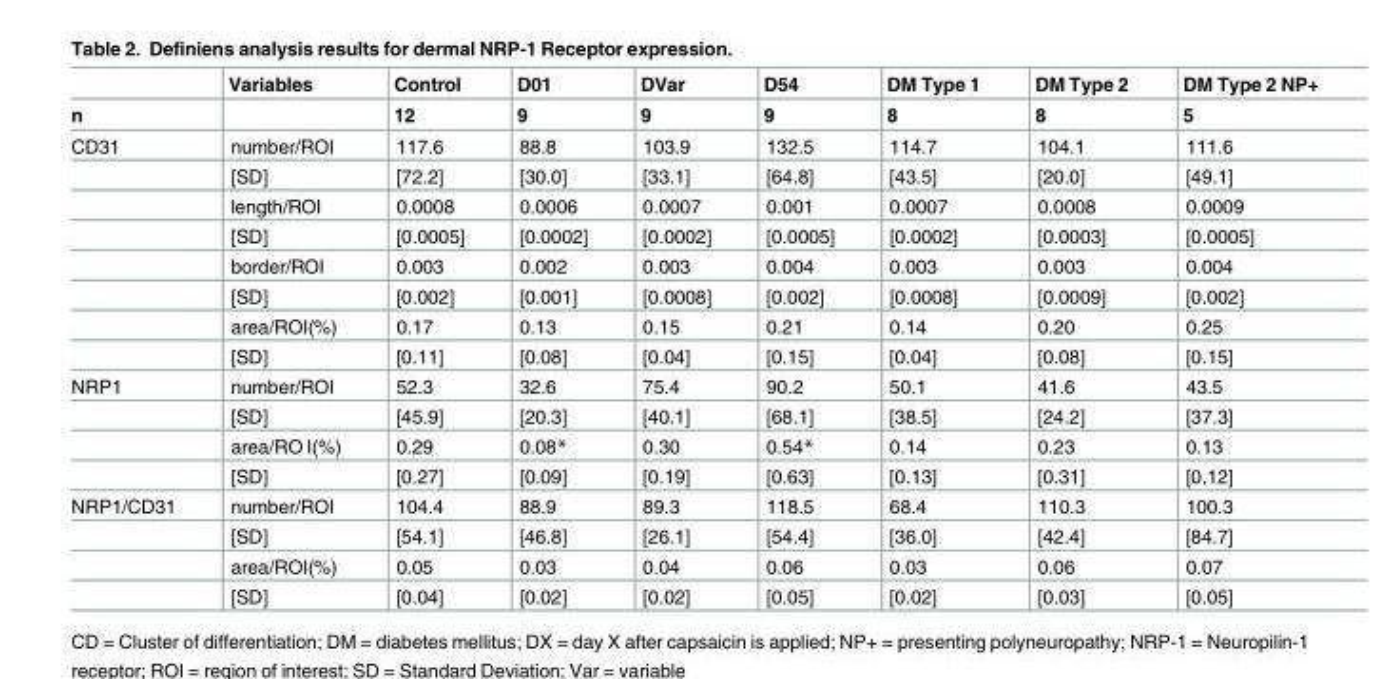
<table><thead><tr><td rowspan="2">n</td><td rowspan="2">Variables</td><td rowspan="2">Control 12</td><td rowspan="2">D01 9</td><td rowspan="2">DVar 9</td><td rowspan="2">D54 9</td><td rowspan="2">DM Type 1 8</td><td rowspan="2">DM Type 2 8</td><td rowspan="2">DM Type 2 NP+ 5</td></tr><tr></tr></thead><tbody><tr><td rowspan="8">CD31</td><td>number/ROI</td><td>117.6</td><td>88.8</td><td>103.9</td><td>132.5</td><td>114.7</td><td>104.1</td><td>111.6</td></tr><tr><td>[SD]</td><td>[72.2]</td><td>[30.0]</td><td>[33.1]</td><td>[64.8]</td><td>[43.5]</td><td>[20.0]</td><td>[49.1]</td></tr><tr><td>length/ROI</td><td>0.0008</td><td>0.0006</td><td>0.0007</td><td>0.001</td><td>0.0007</td><td>0.0008</td><td>0.0009</td></tr><tr><td>[SD]</td><td>[0.0005]</td><td>[0.0002]</td><td>[0.0002]</td><td>[0.0005]</td><td>[0.0002]</td><td>[0.0003]</td><td>[0.0005]</td></tr><tr><td>border/ROI</td><td>0.003</td><td>0.002</td><td>0.003</td><td>0.004</td><td>0.003</td><td>0.003</td><td>0.004</td></tr><tr><td>[SD]</td><td>[0.002]</td><td>[0.001]</td><td>[0.0008]</td><td>[0.002]</td><td>[0.0008]</td><td>[0.0009]</td><td>[0.002]</td></tr><tr><td>area/ROI(%)</td><td>0.17</td><td>0.13</td><td>0.15</td><td>0.21</td><td>0.14</td><td>0.20</td><td>0.25</td></tr><tr><td>[SD]</td><td>[0.11]</td><td>[0.08]</td><td>[0.04]</td><td>[0.15]</td><td>[0.04]</td><td>[0.08]</td><td>[0.15]</td></tr><tr><td rowspan="4">NRP1</td><td>number/ROI</td><td>52.3</td><td>32.6</td><td>75.4</td><td>90.2</td><td>50.1</td><td>41.6</td><td>43.5</td></tr><tr><td>[SD]</td><td>[45.9]</td><td>[20.3]</td><td>[40.1]</td><td>[68.1]</td><td>[38.5]</td><td>[24.2]</td><td>[37.3]</td></tr><tr><td>area/RO I(%)</td><td>0.29</td><td>0.08*</td><td>0.30</td><td>0.54*</td><td>0.14</td><td>0.23</td><td>0.13</td></tr><tr><td>[SD]</td><td>[0.27]</td><td>[0.09]</td><td>[0.19]</td><td>[0.63]</td><td>[0.13]</td><td>[0.31]</td><td>[0.12]</td></tr><tr><td rowspan="4">NRP1/CD31</td><td>number/ROI</td><td>104.4</td><td>88.9</td><td>89.3</td><td>118.5</td><td>68.4</td><td>110.3</td><td>100.3</td></tr><tr><td>[SD]</td><td>[54.1]</td><td>[46.8]</td><td>[26.1]</td><td>[54.4]</td><td>[36.0]</td><td>[42.4]</td><td>[84.7]</td></tr><tr><td>area/ROI(%)</td><td>0.05</td><td>0.03</td><td>0.04</td><td>0.06</td><td>0.03</td><td>0.06</td><td>0.07</td></tr><tr><td>[SD]</td><td>[0.04]</td><td>[0.02]</td><td>[0.02]</td><td>[0.05]</td><td>[0.02]</td><td>[0.03]</td><td>[0.05]</td></tr></tbody></table>